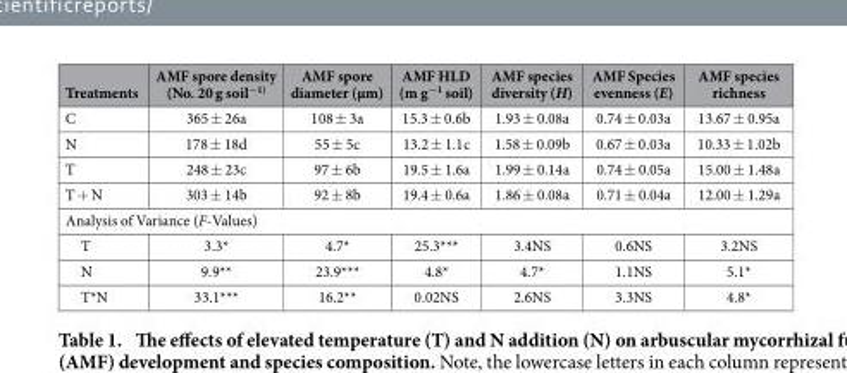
<table><thead><tr><td>Treatments</td><td>AMF spore density (No. 20 g soil<sup>−1)</sup></td><td>AMF spore diameter (μm)</td><td>AMF HLD (m g<sup>−1</sup> soil)</td><td>AMF species diversity (H)</td><td>AMF Species evenness (E)</td><td>AMF species richness</td></tr></thead><tbody><tr><td>C</td><td>365 ± 26a</td><td>108 ± 3a</td><td>15.3 ± 0.6b</td><td>1.93 ± 0.08a</td><td>0.74 ± 0.03a</td><td>13.67 ± 0.95a</td></tr><tr><td>N</td><td>178 ± 18d</td><td>55 ± 5c</td><td>13.2 ± 1.1c</td><td>1.58 ± 0.09b</td><td>0.67 ± 0.03a</td><td>10.33 ± 1.02b</td></tr><tr><td>T</td><td>248 ± 23c</td><td>97 ± 6b</td><td>19.5 ± 1.6a</td><td>1.99 ± 0.14a</td><td>0.74 ± 0.05a</td><td>15.00 ± 1.48a</td></tr><tr><td>T + N</td><td>303 ± 14b</td><td>92 ± 8b</td><td>19.4 ± 0.6a</td><td>1.86 ± 0.08a</td><td>0.71 ± 0.04a</td><td>12.00 ± 1.29a</td></tr><tr><td colspan="7">Analysis of Variance (F-Values)</td></tr><tr><td>T</td><td>3.3*</td><td>4.7*</td><td>25.3***</td><td>3.4NS</td><td>0.6NS</td><td>3.2NS</td></tr><tr><td>N</td><td>9.9**</td><td>23.9***</td><td>4.8*</td><td>4.7*</td><td>1.1NS</td><td>5.1*</td></tr><tr><td>T*N</td><td>33.1***</td><td>16.2**</td><td>0.02NS</td><td>2.6NS</td><td>3.3NS</td><td>4.8*</td></tr></tbody></table>